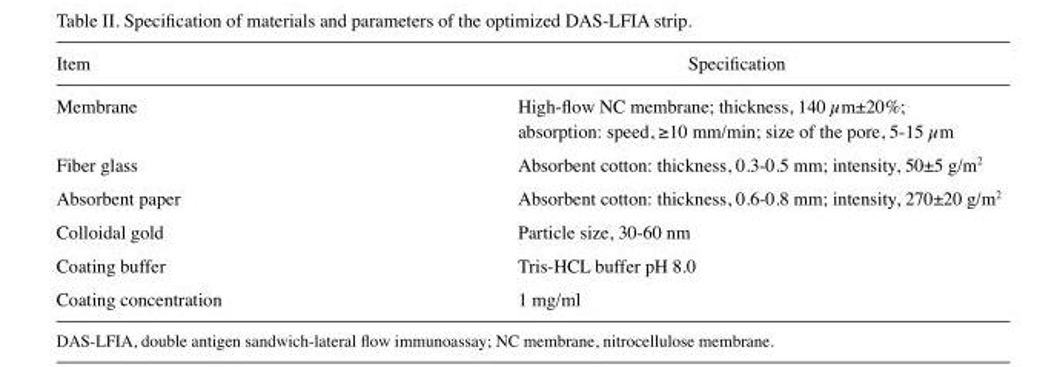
<table><thead><tr><td>Item</td><td>Specification</td></tr></thead><tbody><tr><td>Membrane</td><td>High-flow NC membrane; thickness, 140 µm±20%; absorption: speed, ≥10 mm/min; size of the pore, 5-15 µm</td></tr><tr><td>Fiber glass</td><td>Absorbent cotton: thickness, 0.3-0.5 mm; intensity, 50±5 g/m<sup>2</sup></td></tr><tr><td>Absorbent paper</td><td>Absorbent cotton: thickness, 0.6-0.8 mm; intensity, 270±20 g/m<sup>2</sup></td></tr><tr><td>Colloidal gold</td><td>Particle size, 30-60 nm</td></tr><tr><td>Coating buffer</td><td>Tris-HCL buffer pH 8.0</td></tr><tr><td>Coating concentration</td><td>1 mg/ml</td></tr></tbody></table>